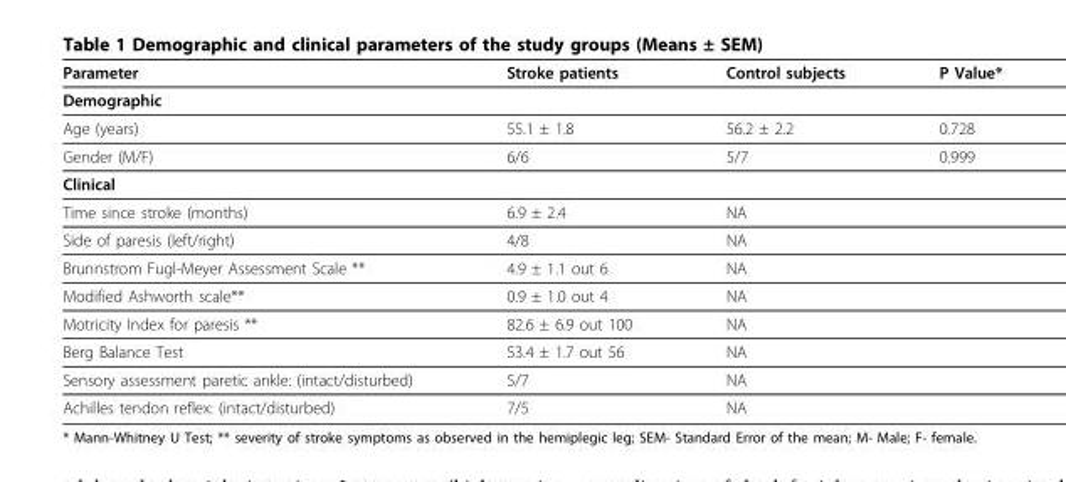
<table><thead><tr><td>Parameter</td><td>Stroke patients</td><td>Control subjects</td><td>P Value*</td></tr></thead><tbody><tr><td colspan="4">Demographic</td></tr><tr><td>Age (years)</td><td>55.1 ± 1.8</td><td>56.2 ± 2.2</td><td>0.728</td></tr><tr><td>Gender (M/F)</td><td>6/6</td><td>5/7</td><td>0.999</td></tr><tr><td colspan="4">Clinical</td></tr><tr><td>Time since stroke (months)</td><td>6.9 ± 2.4</td><td>NA</td><td></td></tr><tr><td>Side of paresis (left/right)</td><td>4/8</td><td>NA</td><td></td></tr><tr><td>Brunnstrom Fugl-Meyer Assessment Scale **</td><td>4.9 ± 1.1 out 6</td><td>NA</td><td></td></tr><tr><td>Modified Ashworth scale**</td><td>0.9 ± 1.0 out 4</td><td>NA</td><td></td></tr><tr><td>Motricity Index for paresis **</td><td>82.6 ± 6.9 out 100</td><td>NA</td><td></td></tr><tr><td>Berg Balance Test</td><td>53.4 ± 1.7 out 56</td><td>NA</td><td></td></tr><tr><td>Sensory assessment paretic ankle: (intact/disturbed)</td><td>5/7</td><td>NA</td><td></td></tr><tr><td>Achilles tendon reflex: (intact/disturbed)</td><td>7/5</td><td>NA</td><td></td></tr></tbody></table>